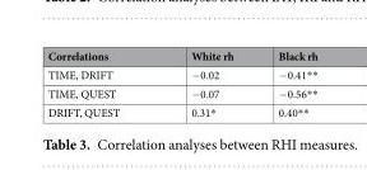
<table><thead><tr><td>Correlations</td><td>White rh</td><td>Black rh</td></tr></thead><tbody><tr><td>TIME, DRIFT</td><td>−0.02</td><td>−0.41**</td></tr><tr><td>TIME, QUEST</td><td>−0.07</td><td>−0.56**</td></tr><tr><td>DRIFT, QUEST</td><td>0.31*</td><td>0.40**</td></tr></tbody></table>